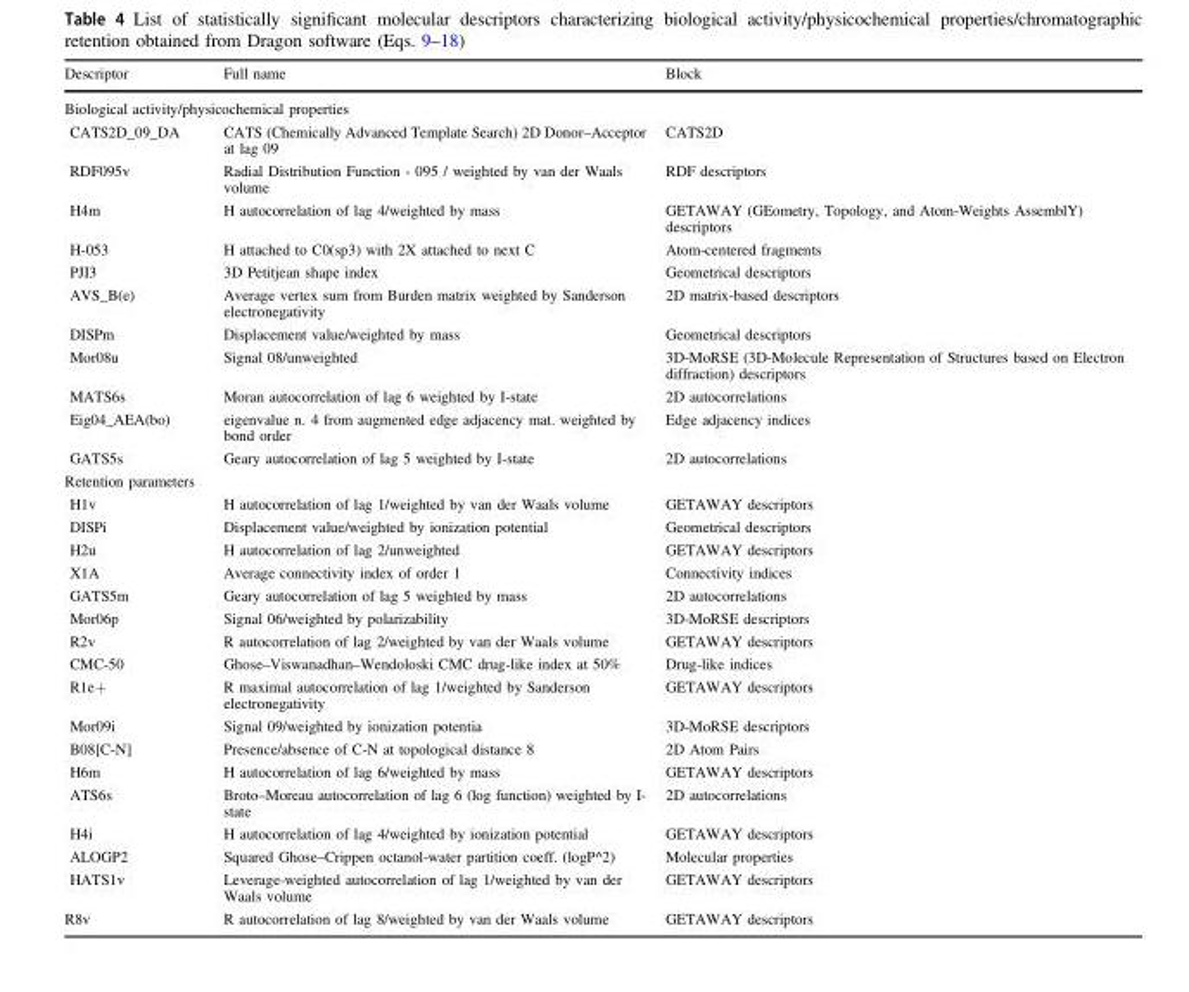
<table><thead><tr><td>Descriptor</td><td>Full name</td><td>Block</td></tr></thead><tbody><tr><td colspan="3">Biological activity/physicochemical properties</td></tr><tr><td>CATS2D_09_DA</td><td>CATS (Chemically Advanced Template Search) 2D Donor–Acceptor at lag 09</td><td>CATS2D</td></tr><tr><td>RDF095v</td><td>Radial Distribution Function - 095 / weighted by van der Waals volume</td><td>RDF descriptors</td></tr><tr><td>H4m</td><td>H autocorrelation of lag 4/weighted by mass</td><td>GETAWAY (GEometry, Topology, and Atom-Weights AssemblY) descriptors</td></tr><tr><td>H-053</td><td>H attached to C0(sp3) with 2X attached to next C</td><td>Atom-centered fragments</td></tr><tr><td>PJI3</td><td>3D Petitjean shape index</td><td>Geometrical descriptors</td></tr><tr><td>AVS_B(e)</td><td>Average vertex sum from Burden matrix weighted by Sanderson electronegativity</td><td>2D matrix-based descriptors</td></tr><tr><td>DISPm</td><td>Displacement value/weighted by mass</td><td>Geometrical descriptors</td></tr><tr><td>Mor08u</td><td>Signal 08/unweighted</td><td>3D-MoRSE (3D-Molecule Representation of Structures based on Electron diffraction) descriptors</td></tr><tr><td>MATS6s</td><td>Moran autocorrelation of lag 6 weighted by I-state</td><td>2D autocorrelations</td></tr><tr><td>Eig04_AEA(bo)</td><td>eigenvalue n. 4 from augmented edge adjacency mat. weighted by bond order</td><td>Edge adjacency indices</td></tr><tr><td>GATS5s</td><td>Geary autocorrelation of lag 5 weighted by I-state</td><td>2D autocorrelations</td></tr><tr><td colspan="3">Retention parameters</td></tr><tr><td>H1v</td><td>H autocorrelation of lag 1/weighted by van der Waals volume</td><td>GETAWAY descriptors</td></tr><tr><td>DISPi</td><td>Displacement value/weighted by ionization potential</td><td>Geometrical descriptors</td></tr><tr><td>H2u</td><td>H autocorrelation of lag 2/unweighted</td><td>GETAWAY descriptors</td></tr><tr><td>X1A</td><td>Average connectivity index of order 1</td><td>Connectivity indices</td></tr><tr><td>GATS5m</td><td>Geary autocorrelation of lag 5 weighted by mass</td><td>2D autocorrelations</td></tr><tr><td>Mor06p</td><td>Signal 06/weighted by polarizability</td><td>3D-MoRSE descriptors</td></tr><tr><td>R2v</td><td>R autocorrelation of lag 2/weighted by van der Waals volume</td><td>GETAWAY descriptors</td></tr><tr><td>CMC-50</td><td>Ghose–Viswanadhan–Wendoloski CMC drug-like index at 50%</td><td>Drug-like indices</td></tr><tr><td>R1e+</td><td>R maximal autocorrelation of lag 1/weighted by Sanderson electronegativity</td><td>GETAWAY descriptors</td></tr><tr><td>Mor09i</td><td>Signal 09/weighted by ionization potentia</td><td>3D-MoRSE descriptors</td></tr><tr><td>B08[C-N]</td><td>Presence/absence of C-N at topological distance 8</td><td>2D Atom Pairs</td></tr><tr><td>H6m</td><td>H autocorrelation of lag 6/weighted by mass</td><td>GETAWAY descriptors</td></tr><tr><td>ATS6s</td><td>Broto–Moreau autocorrelation of lag 6 (log function) weighted by I- state</td><td>2D autocorrelations</td></tr><tr><td>H4i</td><td>H autocorrelation of lag 4/weighted by ionization potential</td><td>GETAWAY descriptors</td></tr><tr><td>ALOGP2</td><td>Squared Ghose–Crippen octanol-water partition coeff. (logP^2)</td><td>Molecular properties</td></tr><tr><td>HATS1v</td><td>Leverage-weighted autocorrelation of lag 1/weighted by van der Waals volume</td><td>GETAWAY descriptors</td></tr><tr><td>R8v</td><td>R autocorrelation of lag 8/weighted by van der Waals volume</td><td>GETAWAY descriptors</td></tr></tbody></table>